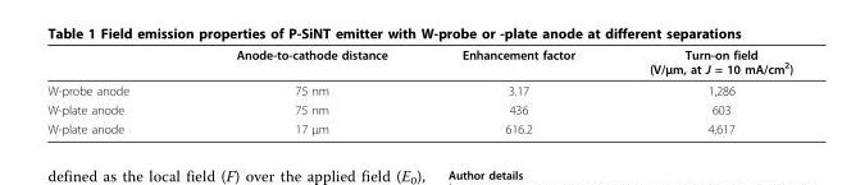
<table><thead><tr><td></td><td>Anode-to-cathode distance</td><td>Enhancement factor</td><td>Turn-on field (V/μm, at J = 10 mA/cm<sup>2</sup>)</td></tr></thead><tbody><tr><td>W-probe anode</td><td>75 nm</td><td>3.17</td><td>1,286</td></tr><tr><td>W-plate anode</td><td>75 nm</td><td>436</td><td>603</td></tr><tr><td>W-plate anode</td><td>17 μm</td><td>616.2</td><td>4.617</td></tr></tbody></table>